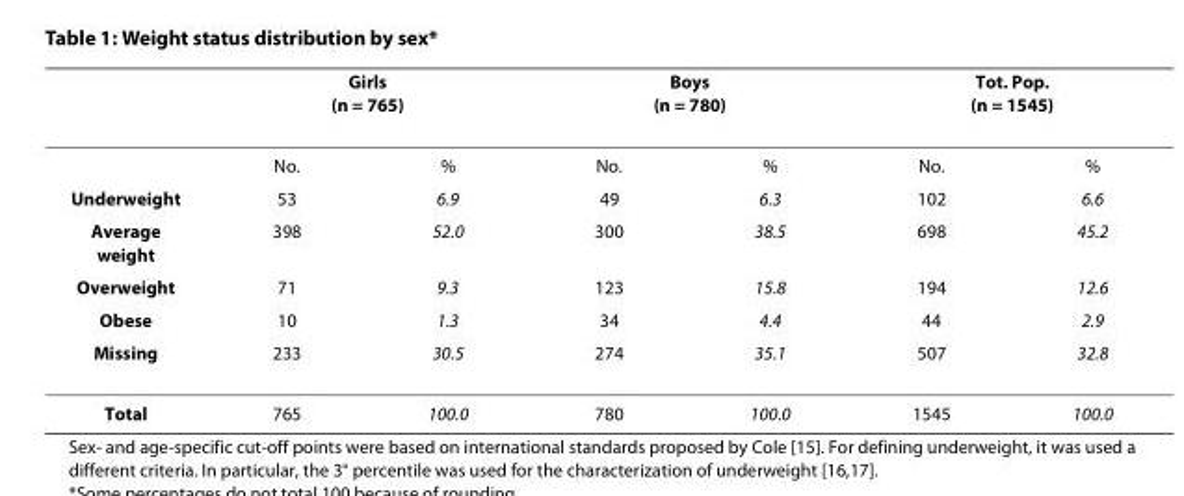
<table><thead><tr><td rowspan="2"></td><td colspan="2">Girls (n = 765)</td><td colspan="2">Boys (n = 780)</td><td colspan="2">Tot. Pop. (n = 1545)</td></tr><tr><td>No.</td><td>%</td><td>No.</td><td>%</td><td>No.</td><td>%</td></tr></thead><tbody><tr><td>Underweight</td><td>53</td><td>6.9</td><td>49</td><td>6.3</td><td>102</td><td>6.6</td></tr><tr><td>Average weight</td><td>398</td><td>52.0</td><td>300</td><td>38.5</td><td>698</td><td>45.2</td></tr><tr><td>Overweight</td><td>71</td><td>9.3</td><td>123</td><td>15.8</td><td>194</td><td>12.6</td></tr><tr><td>Obese</td><td>10</td><td>1.3</td><td>34</td><td>4.4</td><td>44</td><td>2.9</td></tr><tr><td>Missing</td><td>233</td><td>30.5</td><td>274</td><td>35.1</td><td>507</td><td>32.8</td></tr><tr><td>Total</td><td>765</td><td>100.0</td><td>780</td><td>100.0</td><td>1545</td><td>100.0</td></tr></tbody></table>